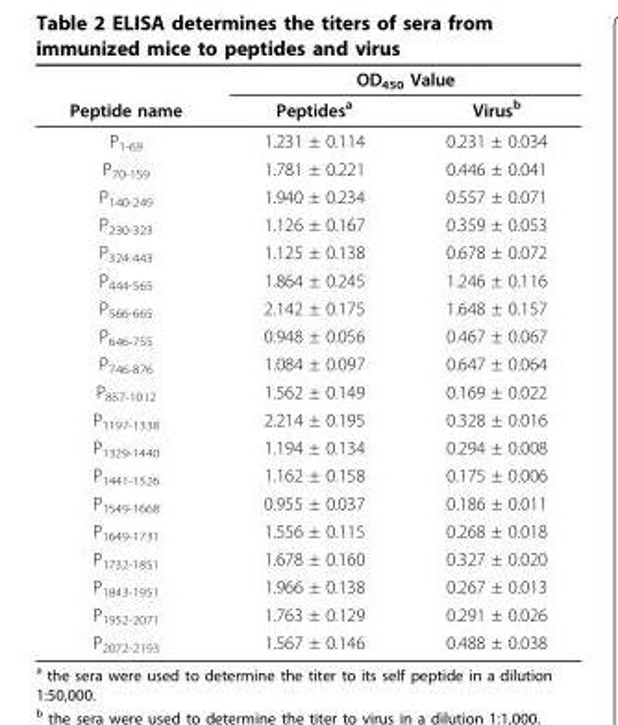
<table><thead><tr><td rowspan="2">Peptide name</td><td colspan="2">OD<sub>450</sub> Value</td></tr><tr><td>Peptides<sup>a</sup></td><td>Virus<sup>b</sup></td></tr></thead><tbody><tr><td>P<sub>1-69</sub></td><td>1.231 ± 0.114</td><td>0.231 ± 0.034</td></tr><tr><td>P<sub>70-159</sub></td><td>1.781 ± 0.221</td><td>0.446 ± 0.041</td></tr><tr><td>P<sub>140-249</sub></td><td>1.940 ± 0.234</td><td>0.557 ± 0.071</td></tr><tr><td>P<sub>230-323</sub></td><td>1.126 ± 0.167</td><td>0.359 ± 0.053</td></tr><tr><td>P<sub>324-443</sub></td><td>1.125 ± 0.138</td><td>0.678 ± 0.072</td></tr><tr><td>P<sub>444-565</sub></td><td>1.864 ± 0.245</td><td>1.246 ± 0.116</td></tr><tr><td>P<sub>566-665</sub></td><td>2.142 ± 0.175</td><td>1.648 ± 0.157</td></tr><tr><td>P<sub>646-755</sub></td><td>0.948 ± 0.056</td><td>0.467 ± 0.067</td></tr><tr><td>P<sub>746-876</sub></td><td>1.084 ± 0.097</td><td>0.647 ± 0.064</td></tr><tr><td>P<sub>857-1012</sub></td><td>1.562 ± 0.149</td><td>0.169 ± 0.022</td></tr><tr><td>P<sub>1197-1338</sub></td><td>2.214 ± 0.195</td><td>0.328 ± 0.016</td></tr><tr><td>P<sub>1329-1440</sub></td><td>1.194 ± 0.134</td><td>0.294 ± 0.008</td></tr><tr><td>P<sub>1441-1526</sub></td><td>1.162 ± 0.158</td><td>0.175 ± 0.006</td></tr><tr><td>P<sub>1549-1668</sub></td><td>0.955 ± 0.037</td><td>0.186 ± 0.011</td></tr><tr><td>P<sub>1649-1731</sub></td><td>1.556 ± 0.115</td><td>0.268 ± 0.018</td></tr><tr><td>P<sub>1732-1851</sub></td><td>1.678 ± 0.160</td><td>0.327 ± 0.020</td></tr><tr><td>P<sub>1843-1951</sub></td><td>1.966 ± 0.138</td><td>0.267 ± 0.013</td></tr><tr><td>P<sub>1952-2071</sub></td><td>1.763 ± 0.129</td><td>0.291 ± 0.026</td></tr><tr><td>P<sub>2072-2193</sub></td><td>1.567 ± 0.146</td><td>0.488 ± 0.038</td></tr></tbody></table>